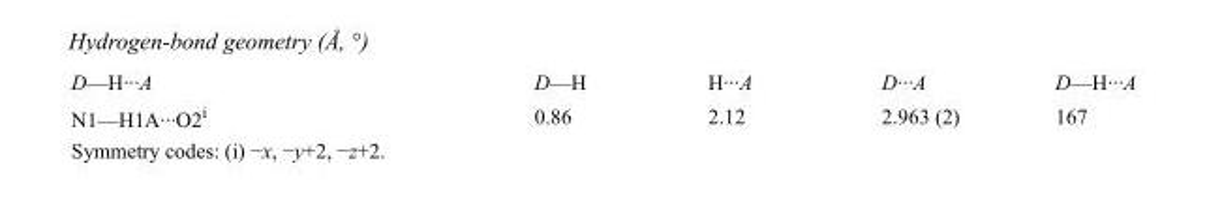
<table><tbody><tr><td>D—H···A</td><td>D—H</td><td>H···A</td><td>D···A</td><td>D—H···A</td></tr><tr><td>N1—H1A···O2<sup>i</sup></td><td>0.86</td><td>2.12</td><td>2.963 (2)</td><td>167</td></tr></tbody></table>